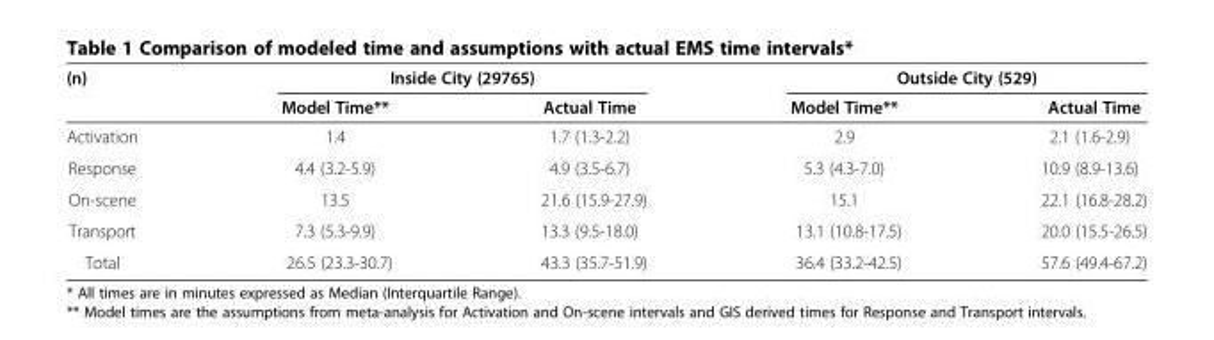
<table><thead><tr><td rowspan="2">(n)</td><td colspan="2">Inside City (29765)</td><td colspan="2">Outside City (529)</td></tr><tr><td>Model Time**</td><td>Actual Time</td><td>Model Time**</td><td>Actual Time</td></tr></thead><tbody><tr><td>Activation</td><td>1.4</td><td>1.7 (1.3-2.2)</td><td>2.9</td><td>2.1 (1.6-2.9)</td></tr><tr><td>Response</td><td>4.4 (3.2-5.9)</td><td>4.9 (3.5-6.7)</td><td>5.3 (4.3-7.0)</td><td>10.9 (8.9-13.6)</td></tr><tr><td>On-scene</td><td>13.5</td><td>21.6 (15.9-27.9)</td><td>15.1</td><td>22.1 (16.8-28.2)</td></tr><tr><td>Transport</td><td>7.3 (5.3-9.9)</td><td>13.3 (9.5-18.0)</td><td>13.1 (10.8-17.5)</td><td>20.0 (15.5-26.5)</td></tr><tr><td>Total</td><td>26.5 (23.3-30.7)</td><td>43.3 (35.7-51.9)</td><td>36.4 (33.2-42.5)</td><td>57.6 (49.4-67.2)</td></tr></tbody></table>